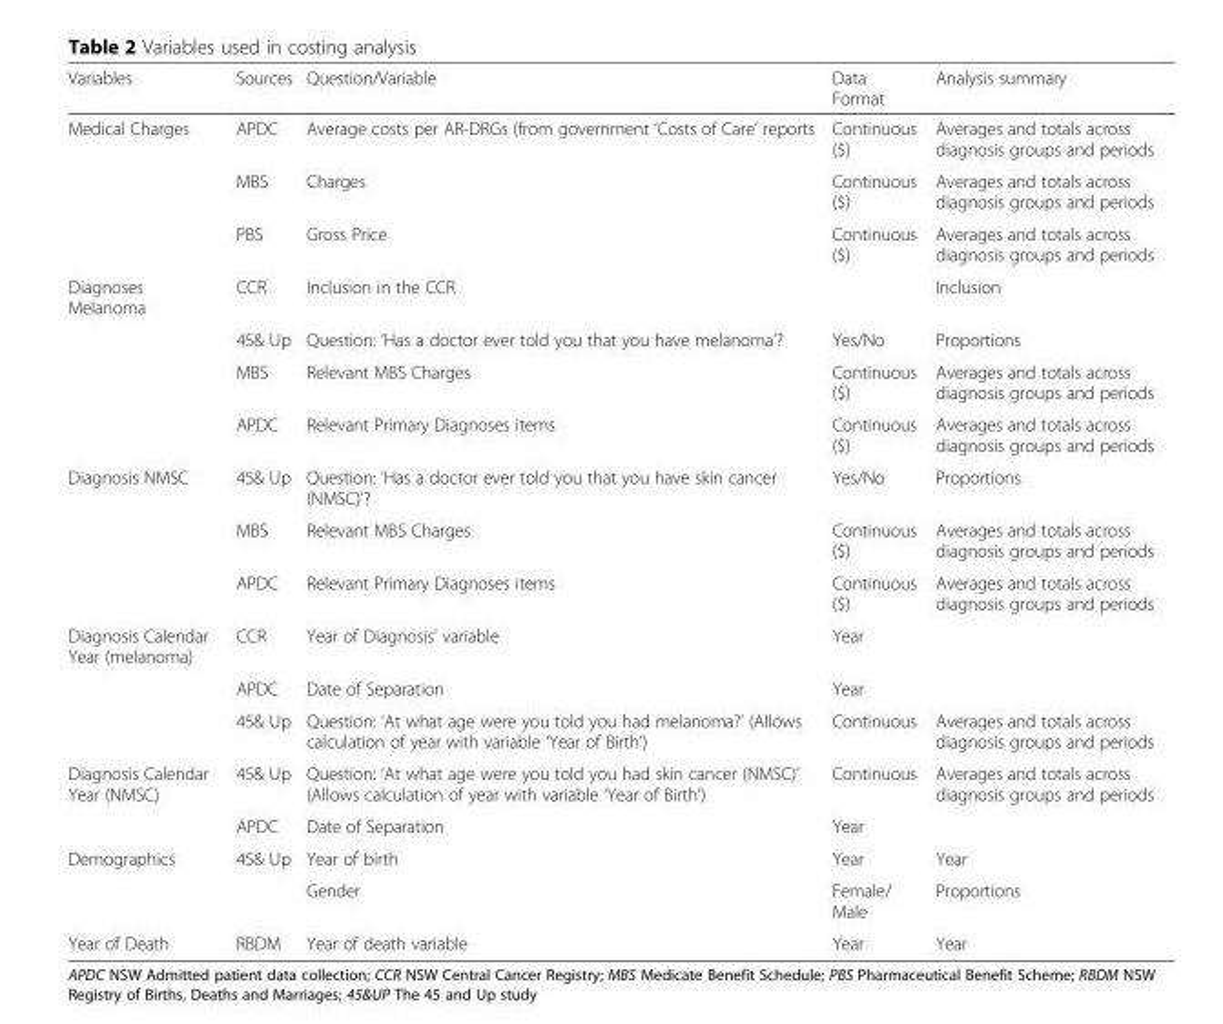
<table><thead><tr><td>Variables</td><td>Sources</td><td>Question/Variable</td><td>Data Format</td><td>Analysis summary</td></tr></thead><tbody><tr><td rowspan="3">Medical Charges</td><td>APDC</td><td>Average costs per AR-DRGs (from government ‘Costs of Care’ reports</td><td>Continuous ($)</td><td>Averages and totals across diagnosis groups and periods</td></tr><tr><td>MBS</td><td>Charges</td><td>Continuous ($)</td><td>Averages and totals across diagnosis groups and periods</td></tr><tr><td>PBS</td><td>Gross Price</td><td>Continuous ($)</td><td>Averages and totals across diagnosis groups and periods</td></tr><tr><td rowspan="4">Diagnoses Melanoma</td><td>CCR</td><td>Inclusion in the CCR</td><td></td><td>Inclusion</td></tr><tr><td>45&amp; Up</td><td>Question: ‘Has a doctor ever told you that you have melanoma’?</td><td>Yes/No</td><td>Proportions</td></tr><tr><td>MBS</td><td>Relevant MBS Charges</td><td>Continuous ($)</td><td>Averages and totals across diagnosis groups and periods</td></tr><tr><td>APDC</td><td>Relevant Primary Diagnoses items</td><td>Continuous ($)</td><td>Averages and totals across diagnosis groups and periods</td></tr><tr><td rowspan="3">Diagnosis NMSC</td><td>45&amp; Up</td><td>Question: ‘Has a doctor ever told you that you have skin cancer (NMSC)’?</td><td>Yes/No</td><td>Proportions</td></tr><tr><td>MBS</td><td>Relevant MBS Charges</td><td>Continuous ($)</td><td>Averages and totals across diagnosis groups and periods</td></tr><tr><td>APDC</td><td>Relevant Primary Diagnoses items</td><td>Continuous ($)</td><td>Averages and totals across diagnosis groups and periods</td></tr><tr><td rowspan="3">Diagnosis Calendar Year (melanoma)</td><td>CCR</td><td>Year of Diagnosis’ variable</td><td>Year</td><td></td></tr><tr><td>APDC</td><td>Date of Separation</td><td>Year</td><td></td></tr><tr><td>45&amp; Up</td><td>Question: ‘At what age were you told you had melanoma?’ (Allows calculation of year with variable ‘Year of Birth’)</td><td>Continuous</td><td>Averages and totals across diagnosis groups and periods</td></tr><tr><td rowspan="2">Diagnosis Calendar Year (NMSC)</td><td>45&amp; Up</td><td>Question: ‘At what age were you told you had skin cancer (NMSC)’ (Allows calculation of year with variable ‘Year of Birth’)</td><td>Continuous</td><td>Averages and totals across diagnosis groups and periods</td></tr><tr><td>APDC</td><td>Date of Separation</td><td>Year</td><td></td></tr><tr><td rowspan="2">Demographics</td><td>45&amp; Up</td><td>Year of birth</td><td>Year</td><td>Year</td></tr><tr><td></td><td>Gender</td><td>Female/ Male</td><td>Proportions</td></tr><tr><td>Year of Death</td><td>RBDM</td><td>Year of death variable</td><td>Year</td><td>Year</td></tr></tbody></table>